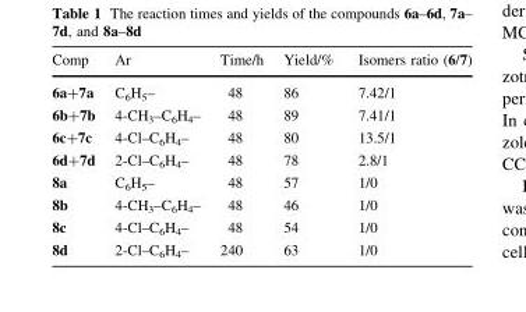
<table><thead><tr><td>Comp</td><td>Ar</td><td>Time/h</td><td>Yield/%</td><td>Isomers ratio (6/7)</td></tr></thead><tbody><tr><td>6a+7a</td><td>C<sub>6</sub>H<sub>5</sub>–</td><td>48</td><td>86</td><td>7.42/1</td></tr><tr><td>6b+7b</td><td>4-CH<sub>3</sub>–C<sub>6</sub>H<sub>4</sub>–</td><td>48</td><td>89</td><td>7.41/1</td></tr><tr><td>6c+7c</td><td>4-Cl–C<sub>6</sub>H<sub>4</sub>–</td><td>48</td><td>80</td><td>13.5/1</td></tr><tr><td>6d+7d</td><td>2-Cl–C<sub>6</sub>H<sub>4</sub>–</td><td>48</td><td>78</td><td>2.8/1</td></tr><tr><td>8a</td><td>C<sub>6</sub>H<sub>5</sub>–</td><td>48</td><td>57</td><td>1/0</td></tr><tr><td>8b</td><td>4-CH<sub>3</sub>–C<sub>6</sub>H<sub>4</sub>–</td><td>48</td><td>46</td><td>1/0</td></tr><tr><td>8c</td><td>4-Cl–C<sub>6</sub>H<sub>4</sub>–</td><td>48</td><td>54</td><td>1/0</td></tr><tr><td>8d</td><td>2-Cl–C<sub>6</sub>H<sub>4</sub>–</td><td>240</td><td>63</td><td>1/0</td></tr></tbody></table>